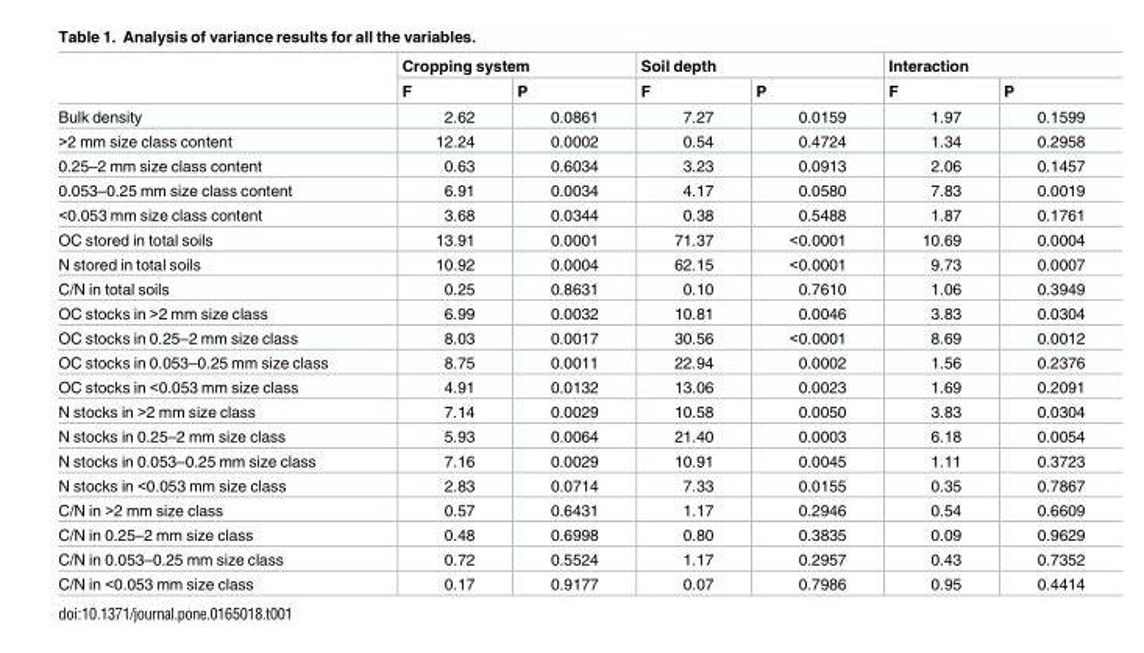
<table><thead><tr><td rowspan="2"></td><td colspan="2">Cropping system</td><td colspan="2">Soil depth</td><td colspan="2">Interaction</td></tr><tr><td>F</td><td>P</td><td>F</td><td>P</td><td>F</td><td>P</td></tr></thead><tbody><tr><td>Bulk density</td><td>2.62</td><td>0.0861</td><td>7.27</td><td>0.0159</td><td>1.97</td><td>0.1599</td></tr><tr><td>&gt;2 mm size class content</td><td>12.24</td><td>0.0002</td><td>0.54</td><td>0.4724</td><td>1.34</td><td>0.2958</td></tr><tr><td>0.25–2 mm size class content</td><td>0.63</td><td>0.6034</td><td>3.23</td><td>0.0913</td><td>2.06</td><td>0.1457</td></tr><tr><td>0.053–0.25 mm size class content</td><td>6.91</td><td>0.0034</td><td>4.17</td><td>0.0580</td><td>7.83</td><td>0.0019</td></tr><tr><td>&lt;0.053 mm size class content</td><td>3.68</td><td>0.0344</td><td>0.38</td><td>0.5488</td><td>1.87</td><td>0.1761</td></tr><tr><td>OC stored in total soils</td><td>13.91</td><td>0.0001</td><td>71.37</td><td>&lt;0.0001</td><td>10.69</td><td>0.0004</td></tr><tr><td>N stored in total soils</td><td>10.92</td><td>0.0004</td><td>62.15</td><td>&lt;0.0001</td><td>9.73</td><td>0.0007</td></tr><tr><td>C/N in total soils</td><td>0.25</td><td>0.8631</td><td>0.10</td><td>0.7610</td><td>1.06</td><td>0.3949</td></tr><tr><td>OC stocks in &gt;2 mm size class</td><td>6.99</td><td>0.0032</td><td>10.81</td><td>0.0046</td><td>3.83</td><td>0.0304</td></tr><tr><td>OC stocks in 0.25–2 mm size class</td><td>8.03</td><td>0.0017</td><td>30.56</td><td>&lt;0.0001</td><td>8.69</td><td>0.0012</td></tr><tr><td>OC stocks in 0.053–0.25 mm size class</td><td>8.75</td><td>0.0011</td><td>22.94</td><td>0.0002</td><td>1.56</td><td>0.2376</td></tr><tr><td>OC stocks in &lt;0.053 mm size class</td><td>4.91</td><td>0.0132</td><td>13.06</td><td>0.0023</td><td>1.69</td><td>0.2091</td></tr><tr><td>N stocks in &gt;2 mm size class</td><td>7.14</td><td>0.0029</td><td>10.58</td><td>0.0050</td><td>3.83</td><td>0.0304</td></tr><tr><td>N stocks in 0.25–2 mm size class</td><td>5.93</td><td>0.0064</td><td>21.40</td><td>0.0003</td><td>6.18</td><td>0.0054</td></tr><tr><td>N stocks in 0.053–0.25 mm size class</td><td>7.16</td><td>0.0029</td><td>10.91</td><td>0.0045</td><td>1.11</td><td>0.3723</td></tr><tr><td>N stocks in &lt;0.053 mm size class</td><td>2.83</td><td>0.0714</td><td>7.33</td><td>0.0155</td><td>0.35</td><td>0.7867</td></tr><tr><td>C/N in &gt;2 mm size class</td><td>0.57</td><td>0.6431</td><td>1.17</td><td>0.2946</td><td>0.54</td><td>0.6609</td></tr><tr><td>C/N in 0.25–2 mm size class</td><td>0.48</td><td>0.6998</td><td>0.80</td><td>0.3835</td><td>0.09</td><td>0.9629</td></tr><tr><td>C/N in 0.053–0.25 mm size class</td><td>0.72</td><td>0.5524</td><td>1.17</td><td>0.2957</td><td>0.43</td><td>0.7352</td></tr><tr><td>C/N in &lt;0.053 mm size class</td><td>0.17</td><td>0.9177</td><td>0.07</td><td>0.7986</td><td>0.95</td><td>0.4414</td></tr></tbody></table>